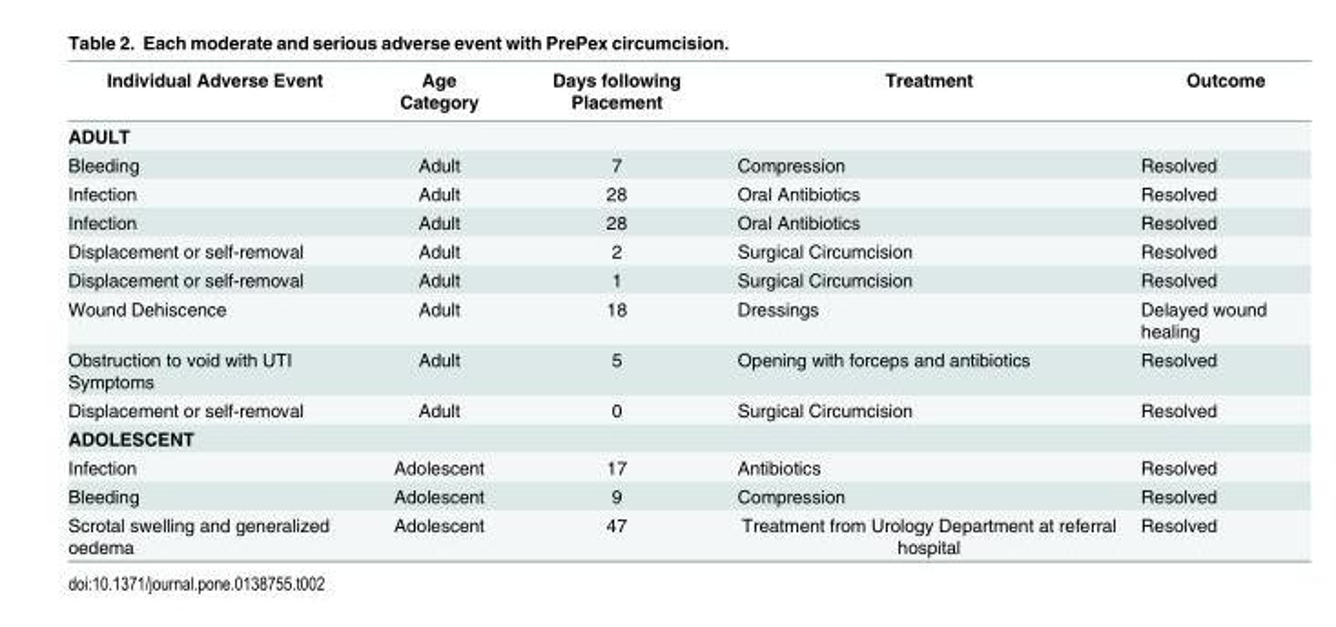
<table><thead><tr><td>Individual Adverse Event</td><td>Age Category</td><td>Days following Placement</td><td>Treatment</td><td>Outcome</td></tr></thead><tbody><tr><td colspan="5">ADULT</td></tr><tr><td>Bleeding</td><td>Adult</td><td>7</td><td>Compression</td><td>Resolved</td></tr><tr><td>Infection</td><td>Adult</td><td>28</td><td>Oral Antibiotics</td><td>Resolved</td></tr><tr><td>Infection</td><td>Adult</td><td>28</td><td>Oral Antibiotics</td><td>Resolved</td></tr><tr><td>Displacement or self-removal</td><td>Adult</td><td>2</td><td>Surgical Circumcision</td><td>Resolved</td></tr><tr><td>Displacement or self-removal</td><td>Adult</td><td>1</td><td>Surgical Circumcision</td><td>Resolved</td></tr><tr><td>Wound Dehiscence</td><td>Adult</td><td>18</td><td>Dressings</td><td>Delayed wound healing</td></tr><tr><td>Obstruction to void with UTI Symptoms</td><td>Adult</td><td>5</td><td>Opening with forceps and antibiotics</td><td>Resolved</td></tr><tr><td>Displacement or self-removal</td><td>Adult</td><td>0</td><td>Surgical Circumcision</td><td>Resolved</td></tr><tr><td colspan="5">ADOLESCENT</td></tr><tr><td>Infection</td><td>Adolescent</td><td>17</td><td>Antibiotics</td><td>Resolved</td></tr><tr><td>Bleeding</td><td>Adolescent</td><td>9</td><td>Compression</td><td>Resolved</td></tr><tr><td>Scrotal swelling and generalized oedema</td><td>Adolescent</td><td>47</td><td>Treatment from Urology Department at referral hospital</td><td>Resolved</td></tr></tbody></table>